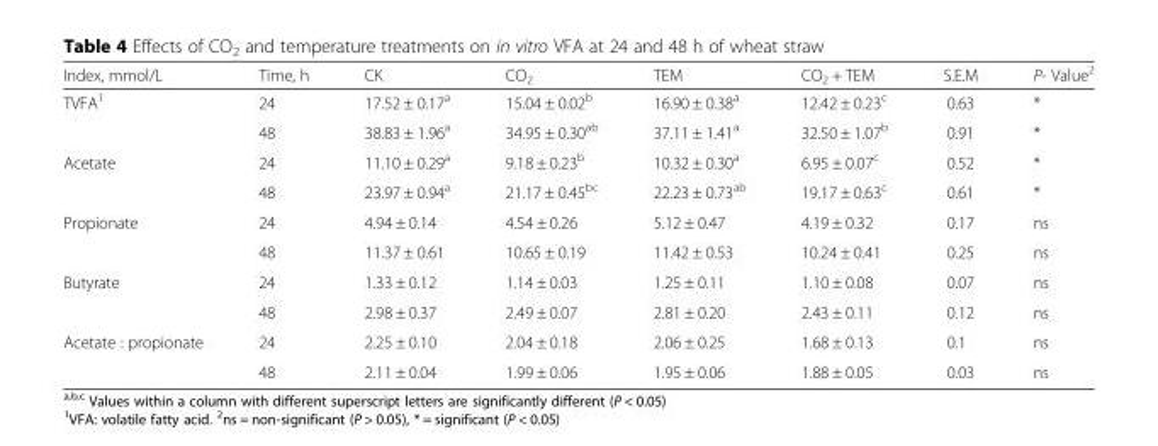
<table><thead><tr><td>Index, mmol/L</td><td>Time, h</td><td>CK</td><td>CO<sub>2</sub></td><td>TEM</td><td>CO<sub>2</sub> + TEM</td><td>S.E.M</td><td>P- Value<sup>2</sup></td></tr></thead><tbody><tr><td rowspan="2">TVFA<sup>1</sup></td><td>24</td><td>17.52 ± 0.17<sup>a</sup></td><td>15.04 ± 0.02<sup>b</sup></td><td>16.90 ± 0.38<sup>a</sup></td><td>12.42 ± 0.23<sup>c</sup></td><td>0.63</td><td>*</td></tr><tr><td>48</td><td>38.83 ± 1.96<sup>a</sup></td><td>34.95 ± 0.30<sup>ab</sup></td><td>37.11 ± 1.41<sup>a</sup></td><td>32.50 ± 1.07<sup>b</sup></td><td>0.91</td><td>*</td></tr><tr><td rowspan="2">Acetate</td><td>24</td><td>11.10 ± 0.29<sup>a</sup></td><td>9.18 ± 0.23<sup>b</sup></td><td>10.32 ± 0.30<sup>a</sup></td><td>6.95 ± 0.07<sup>c</sup></td><td>0.52</td><td>*</td></tr><tr><td>48</td><td>23.97 ± 0.94<sup>a</sup></td><td>21.17 ± 0.45<sup>bc</sup></td><td>22.23 ± 0.73<sup>ab</sup></td><td>19.17 ± 0.63<sup>c</sup></td><td>0.61</td><td>*</td></tr><tr><td rowspan="2">Propionate</td><td>24</td><td>4.94 ± 0.14</td><td>4.54 ± 0.26</td><td>5.12 ± 0.47</td><td>4.19 ± 0.32</td><td>0.17</td><td>ns</td></tr><tr><td>48</td><td>11.37 ± 0.61</td><td>10.65 ± 0.19</td><td>11.42 ± 0.53</td><td>10.24 ± 0.41</td><td>0.25</td><td>ns</td></tr><tr><td rowspan="2">Butyrate</td><td>24</td><td>1.33 ± 0.12</td><td>1.14 ± 0.03</td><td>1.25 ± 0.11</td><td>1.10 ± 0.08</td><td>0.07</td><td>ns</td></tr><tr><td>48</td><td>2.98 ± 0.37</td><td>2.49 ± 0.07</td><td>2.81 ± 0.20</td><td>2.43 ± 0.11</td><td>0.12</td><td>ns</td></tr><tr><td rowspan="2">Acetate : propionate</td><td>24</td><td>2.25 ± 0.10</td><td>2.04 ± 0.18</td><td>2.06 ± 0.25</td><td>1.68 ± 0.13</td><td>0.1</td><td>ns</td></tr><tr><td>48</td><td>2.11 ± 0.04</td><td>1.99 ± 0.06</td><td>1.95 ± 0.06</td><td>1.88 ± 0.05</td><td>0.03</td><td>ns</td></tr></tbody></table>